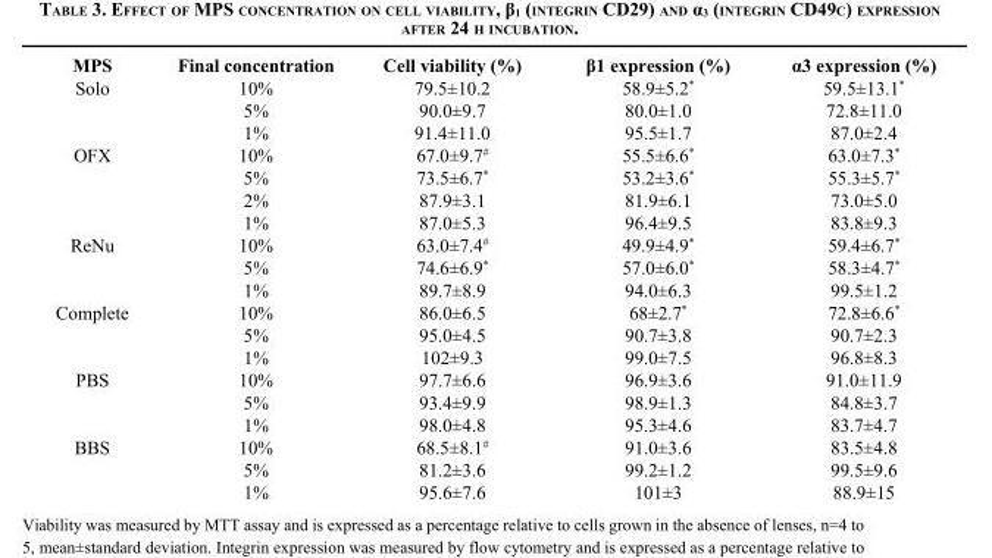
<table><thead><tr><td>MPS</td><td>Final concentration</td><td>Cell viability (%)</td><td>β1 expression (%)</td><td>α3 expression (%)</td></tr></thead><tbody><tr><td rowspan="3">Solo</td><td>10%</td><td>79.5±10.2</td><td>58.9±5.2*</td><td>59.5±13.1*</td></tr><tr><td>5%</td><td>90.0±9.7</td><td>80.0±1.0</td><td>72.8±11.0</td></tr><tr><td>1%</td><td>91.4±11.0</td><td>95.5±1.7</td><td>87.0±2.4</td></tr><tr><td rowspan="4">OFX</td><td>10%</td><td>67.0±9.7<sup>#</sup></td><td>55.5±6.6*</td><td>63.0±7.3*</td></tr><tr><td>5%</td><td>73.5±6.7*</td><td>53.2±3.6*</td><td>55.3±5.7*</td></tr><tr><td>2%</td><td>87.9±3.1</td><td>81.9±6.1</td><td>73.0±5.0</td></tr><tr><td>1%</td><td>87.0±5.3</td><td>96.4±9.5</td><td>83.8±9.3</td></tr><tr><td rowspan="3">ReNu</td><td>10%</td><td>63.0±7.4<sup>#</sup></td><td>49.9±4.9*</td><td>59.4±6.7*</td></tr><tr><td>5%</td><td>74.6±6.9*</td><td>57.0±6.0*</td><td>58.3±4.7*</td></tr><tr><td>1%</td><td>89.7±8.9</td><td>94.0±6.3</td><td>99.5±1.2</td></tr><tr><td rowspan="3">Complete</td><td>10%</td><td>86.0±6.5</td><td>68±2.7*</td><td>72.8±6.6*</td></tr><tr><td>5%</td><td>95.0±4.5</td><td>90.7±3.8</td><td>90.7±2.3</td></tr><tr><td>1%</td><td>102±9.3</td><td>99.0±7.5</td><td>96.8±8.3</td></tr><tr><td rowspan="3">PBS</td><td>10%</td><td>97.7±6.6</td><td>96.9±3.6</td><td>91.0±11.9</td></tr><tr><td>5%</td><td>93.4±9.9</td><td>98.9±1.3</td><td>84.8±3.7</td></tr><tr><td>1%</td><td>98.0±4.8</td><td>95.3±4.6</td><td>83.7±4.7</td></tr><tr><td rowspan="3">BBS</td><td>10%</td><td>68.5±8.1<sup>#</sup></td><td>91.0±3.6</td><td>83.5±4.8</td></tr><tr><td>5%</td><td>81.2±3.6</td><td>99.2±1.2</td><td>99.5±9.6</td></tr><tr><td>1%</td><td>95.6±7.6</td><td>101±3</td><td>88.9±15</td></tr></tbody></table>